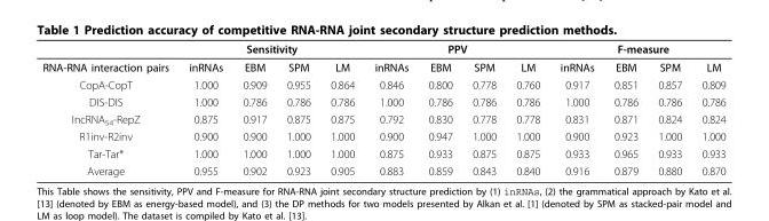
<table><thead><tr><td rowspan="2">RNA-RNA interaction pairs</td><td colspan="4">Sensitivity</td><td colspan="4">PPV</td><td colspan="4">F-measure</td></tr><tr><td>inRNAs</td><td>EBM</td><td>SPM</td><td>LM</td><td>inRNAs</td><td>EBM</td><td>SPM</td><td>LM</td><td>inRNAs</td><td>EBM</td><td>SPM</td><td>LM</td></tr></thead><tbody><tr><td>CopA-CopT</td><td>1.000</td><td>0.909</td><td>0.955</td><td>0.864</td><td>0.846</td><td>0.800</td><td>0.778</td><td>0.760</td><td>0.917</td><td>0.851</td><td>0.857</td><td>0.809</td></tr><tr><td>DIS-DIS</td><td>1.000</td><td>0.786</td><td>0.786</td><td>0.786</td><td>1.000</td><td>0.786</td><td>0.786</td><td>0.786</td><td>1.000</td><td>0.786</td><td>0.786</td><td>0.786</td></tr><tr><td>IncRNA<sub>54</sub>-RepZ</td><td>0.875</td><td>0.917</td><td>0.875</td><td>0.875</td><td>0.792</td><td>0.830</td><td>0.778</td><td>0.778</td><td>0.831</td><td>0.871</td><td>0.824</td><td>0.824</td></tr><tr><td>R1inv-R2inv</td><td>0.900</td><td>0.900</td><td>1.000</td><td>1.000</td><td>0.900</td><td>0.947</td><td>1.000</td><td>1.000</td><td>0.900</td><td>0.923</td><td>1.000</td><td>1.000</td></tr><tr><td>Tar-Tar*</td><td>1.000</td><td>1.000</td><td>1.000</td><td>1.000</td><td>0.875</td><td>0.933</td><td>0.875</td><td>0.875</td><td>0.933</td><td>0.965</td><td>0.933</td><td>0.933</td></tr><tr><td>Average</td><td>0.955</td><td>0.902</td><td>0.923</td><td>0.905</td><td>0.883</td><td>0.859</td><td>0.843</td><td>0.840</td><td>0.916</td><td>0.879</td><td>0.880</td><td>0.870</td></tr></tbody></table>